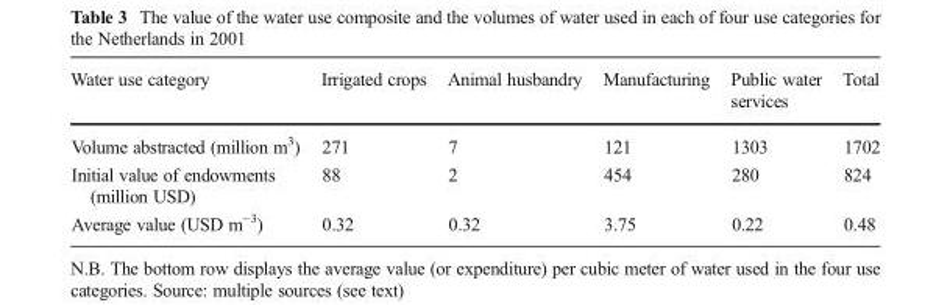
<table><thead><tr><td>Water use category</td><td>Irrigated crops</td><td>Animal husbandry</td><td>Manufacturing</td><td>Public water services</td><td>Total</td></tr></thead><tbody><tr><td>Volume abstracted (million m<sup>3</sup>)</td><td>271</td><td>7</td><td>121</td><td>1303</td><td>1702</td></tr><tr><td>Initial value of endowments (million USD)</td><td>88</td><td>2</td><td>454</td><td>280</td><td>824</td></tr><tr><td>Average value (USD m<sup>−3</sup>)</td><td>0.32</td><td>0.32</td><td>3.75</td><td>0.22</td><td>0.48</td></tr></tbody></table>